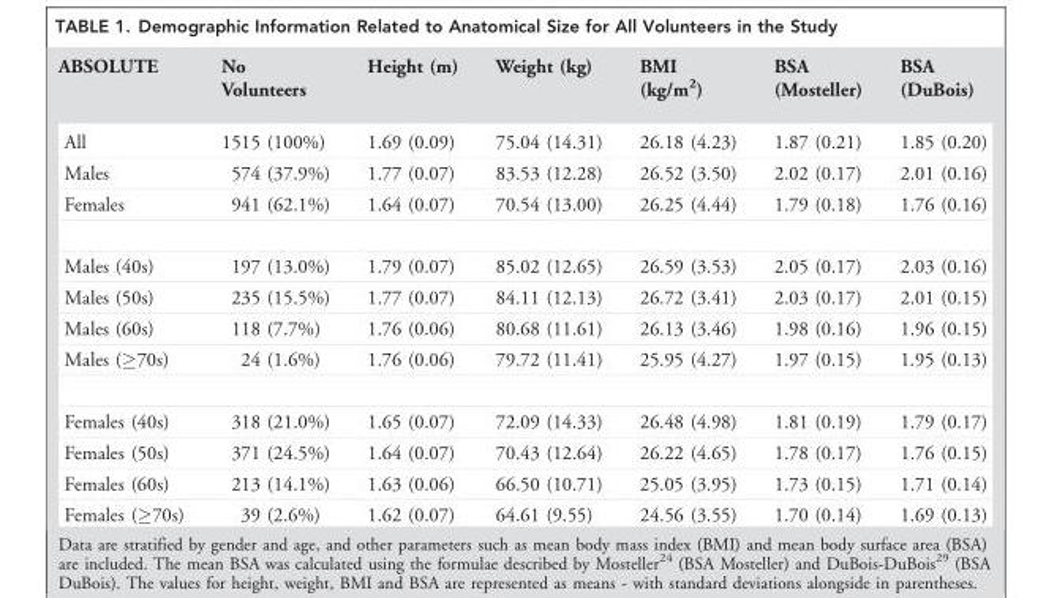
<table><thead><tr><td>ABSOLUTE</td><td>No Volunteers</td><td>Height (m)</td><td>Weight (kg)</td><td>BMI (kg/m<sup>2</sup>)</td><td>BSA (Mosteller)</td><td>BSA (DuBois)</td></tr></thead><tbody><tr><td>All</td><td>1515 (100%)</td><td>1.69 (0.09)</td><td>75.04 (14.31)</td><td>26.18 (4.23)</td><td>1.87 (0.21)</td><td>1.85 (0.20)</td></tr><tr><td>Males</td><td>574 (37.9%)</td><td>1.77 (0.07)</td><td>83.53 (12.28)</td><td>26.52 (3.50)</td><td>2.02 (0.17)</td><td>2.01 (0.16)</td></tr><tr><td>Females</td><td>941 (62.1%)</td><td>1.64 (0.07)</td><td>70.54 (13.00)</td><td>26.25 (4.44)</td><td>1.79 (0.18)</td><td>1.76 (0.16)</td></tr><tr><td>Males (40s)</td><td>197 (13.0%)</td><td>1.79 (0.07)</td><td>85.02 (12.65)</td><td>26.59 (3.53)</td><td>2.05 (0.17)</td><td>2.03 (0.16)</td></tr><tr><td>Males (50s)</td><td>235 (15.5%)</td><td>1.77 (0.07)</td><td>84.11 (12.13)</td><td>26.72 (3.41)</td><td>2.03 (0.17)</td><td>2.01 (0.15)</td></tr><tr><td>Males (60s)</td><td>118 (7.7%)</td><td>1.76 (0.06)</td><td>80.68 (11.61)</td><td>26.13 (3.46)</td><td>1.98 (0.16)</td><td>1.96 (0.15)</td></tr><tr><td>Males (≥70s)</td><td>24 (1.6%)</td><td>1.76 (0.06)</td><td>79.72 (11.41)</td><td>25.95 (4.27)</td><td>1.97 (0.15)</td><td>1.95 (0.13)</td></tr><tr><td>Females (40s)</td><td>318 (21.0%)</td><td>1.65 (0.07)</td><td>72.09 (14.33)</td><td>26.48 (4.98)</td><td>1.81 (0.19)</td><td>1.79 (0.17)</td></tr><tr><td>Females (50s)</td><td>371 (24.5%)</td><td>1.64 (0.07)</td><td>70.43 (12.64)</td><td>26.22 (4.65)</td><td>1.78 (0.17)</td><td>1.76 (0.15)</td></tr><tr><td>Females (60s)</td><td>213 (14.1%)</td><td>1.63 (0.06)</td><td>66.50 (10.71)</td><td>25.05 (3.95)</td><td>1.73 (0.15)</td><td>1.71 (0.14)</td></tr><tr><td>Females (≥70s)</td><td>39 (2.6%)</td><td>1.62 (0.07)</td><td>64.61 (9.55)</td><td>24.56 (3.55)</td><td>1.70 (0.14)</td><td>1.69 (0.13)</td></tr></tbody></table>